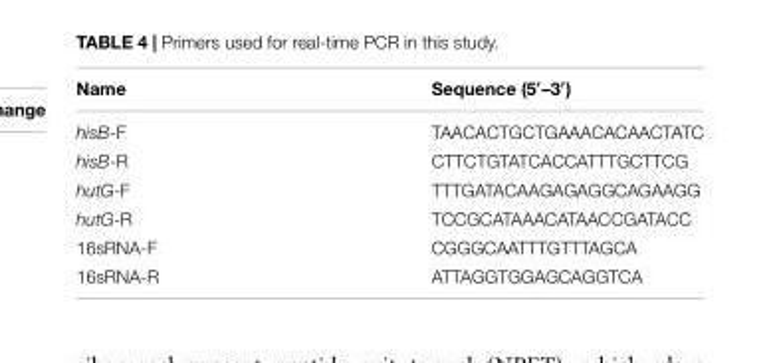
<table><thead><tr><td>Name</td><td>Sequence (5′–3′)</td></tr></thead><tbody><tr><td>hisB-F</td><td>TAACACTGCTGAAACACAACTATC</td></tr><tr><td>hisB-R</td><td>CTTCTGTATCACCATTTGCTTCG</td></tr><tr><td>hutG-F</td><td>TTTGATACAAGAGAGGCAGAAGG</td></tr><tr><td>hutG-R</td><td>TCCGCATAAACATAACCGATACC</td></tr><tr><td>16sRNA-F</td><td>CGGGCAATTTGTTTAGCA</td></tr><tr><td>16sRNA-R</td><td>ATTAGGTGGAGCAGGTCA</td></tr></tbody></table>